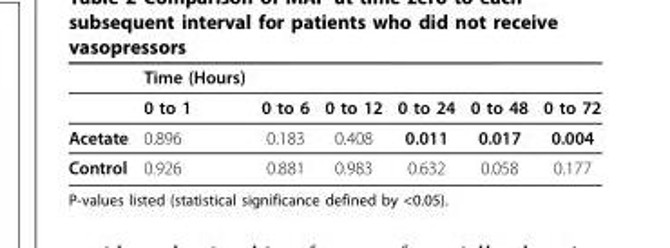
<table><thead><tr><td></td><td>Time (Hours)</td><td></td><td></td><td></td><td></td><td></td></tr></thead><tbody><tr><td></td><td>0 to 1</td><td>0 to 6</td><td>0 to 12</td><td>0 to 24</td><td>0 to 48</td><td>0 to 72</td></tr><tr><td>Acetate</td><td>0.896</td><td>0.183</td><td>0.408</td><td>0.011</td><td>0.017</td><td>0.004</td></tr><tr><td>Control</td><td>0.926</td><td>0.881</td><td>0.983</td><td>0.632</td><td>0.058</td><td>0.177</td></tr></tbody></table>